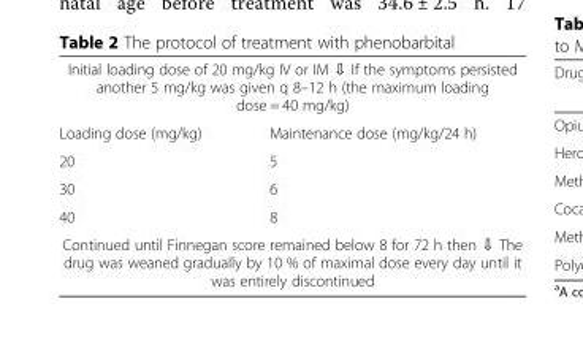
<table><tbody><tr><td colspan="2">Initial loading dose of 20 mg/kg IV or IM ⇩ If the symptoms persisted another 5 mg/kg was given q 8–12 h (the maximum loading dose = 40 mg/kg)</td></tr><tr><td>Loading dose (mg/kg)</td><td>Maintenance dose (mg/kg/24 h)</td></tr><tr><td>20</td><td>5</td></tr><tr><td>30</td><td>6</td></tr><tr><td>40</td><td>8</td></tr><tr><td colspan="2">Continued until Finnegan score remained below 8 for 72 h then ⇩ The drug was weaned gradually by 10 % of maximal dose every day until it was entirely discontinued</td></tr></tbody></table>